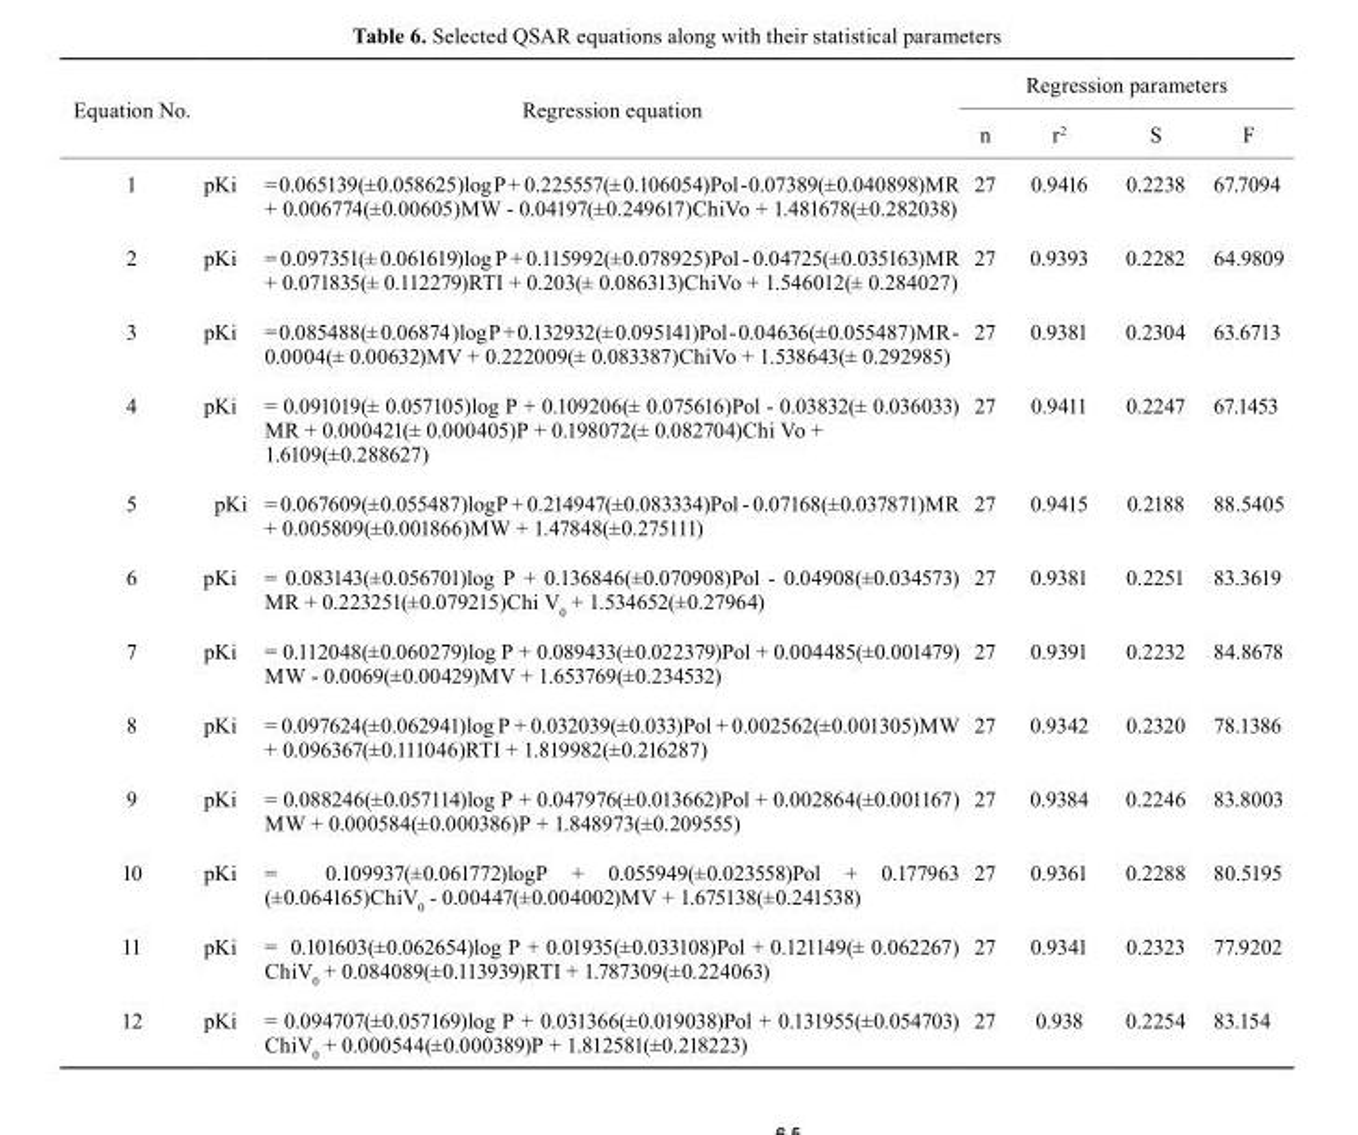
<table><thead><tr><td rowspan="2">Equation No.</td><td rowspan="2"></td><td rowspan="2">Regression equation</td><td colspan="4">Regression parameters</td></tr><tr><td>n</td><td>r<sup>2</sup></td><td>S</td><td>F</td></tr></thead><tbody><tr><td>1</td><td>pKi</td><td>= 0.065139(±0.058625)log P + 0.225557(± 0.106054)Pol -0.07389(±0.040898)MR + 0.006774(±0.00605)MW - 0.04197(±0.249617)ChiVo + 1.481678(±0.282038)</td><td>27</td><td>0.9416</td><td>0.2238</td><td>67.7094</td></tr><tr><td>2</td><td>pKi</td><td>= 0.097351(± 0.061619)log P + 0.115992(±0.078925)Pol - 0.04725(±0.035163)MR + 0.071835(± 0.112279)RTI + 0.203(± 0.086313)ChiVo + 1.546012(± 0.284027)</td><td>27</td><td>0.9393</td><td>0.2282</td><td>64.9809</td></tr><tr><td>3</td><td>pKi</td><td>= 0.085488(± 0.06874 )log P + 0.132932(± 0.095141)Pol - 0.04636(±0.055487)MR - 0.0004(± 0.00632)MV + 0.222009(± 0.083387)ChiVo + 1.538643(± 0.292985)</td><td>27</td><td>0.9381</td><td>0.2304</td><td>63.6713</td></tr><tr><td>4</td><td>pKi</td><td>= 0.091019(± 0.057105)log P + 0.109206(± 0.075616)Pol - 0.03832(± 0.036033) MR + 0.000421(± 0.000405)P + 0.198072(± 0.082704)Chi Vo + 1.6109(±0.288627)</td><td>27</td><td>0.9411</td><td>0.2247</td><td>67.1453</td></tr><tr><td>5</td><td>pKi</td><td>= 0.067609(±0.055487)logP + 0.214947(±0.083334)Pol - 0.07168(±0.037871)MR + 0.005809(±0.001866)MW + 1.47848(±0.275111)</td><td>27</td><td>0.9415</td><td>0.2188</td><td>88.5405</td></tr><tr><td>6</td><td>pKi</td><td>= 0.083143(±0.056701)log P + 0.136846(±0.070908)Pol - 0.04908(±0.034573) MR + 0.223251(±0.079215)Chi V0 + 1.534652(±0.27964)</td><td>27</td><td>0.9381</td><td>0.2251</td><td>83.3619</td></tr><tr><td>7</td><td>pKi</td><td>= 0.112048(±0.060279)log P + 0.089433(±0.022379)Pol + 0.004485(±0.001479) MW - 0.0069(±0.00429)MV + 1.653769(±0.234532)</td><td>27</td><td>0.9391</td><td>0.2232</td><td>84.8678</td></tr><tr><td>8</td><td>pKi</td><td>= 0.097624(±0.062941)log P + 0.032039(±0.033)Pol + 0.002562(±0.001305)MW + 0.096367(±0.111046)RTI + 1.819982(±0.216287)</td><td>27</td><td>0.9342</td><td>0.2320</td><td>78.1386</td></tr><tr><td>9</td><td>pKi</td><td>= 0.088246(±0.057114)log P + 0.047976(±0.013662)Pol + 0.002864(±0.001167) MW + 0.000584(±0.000386)P + 1.848973(±0.209555)</td><td>27</td><td>0.9384</td><td>0.2246</td><td>83.8003</td></tr><tr><td>10</td><td>pKi</td><td>= 0.109937(±0.061772)logP + 0.055949(±0.023558)Pol + 0.177963 (±0.064165)ChiV0 - 0.00447(±0.004002)MV + 1.675138(±0.241538)</td><td>27</td><td>0.9361</td><td>0.2288</td><td>80.5195</td></tr><tr><td>11</td><td>pKi</td><td>= 0.101603(±0.062654)log P + 0.01935(±0.033108)Pol + 0.121149(± 0.062267) ChiV0 + 0.084089(±0.113939)RTI + 1.787309(±0.224063)</td><td>27</td><td>0.9341</td><td>0.2323</td><td>77.9202</td></tr><tr><td>12</td><td>pKi</td><td>= 0.094707(±0.057169)log P + 0.031366(±0.019038)Pol + 0.131955(±0.054703) ChiV0 + 0.000544(±0.000389)P + 1.812581(±0.218223)</td><td>27</td><td>0.938</td><td>0.2254</td><td>83.154</td></tr></tbody></table>